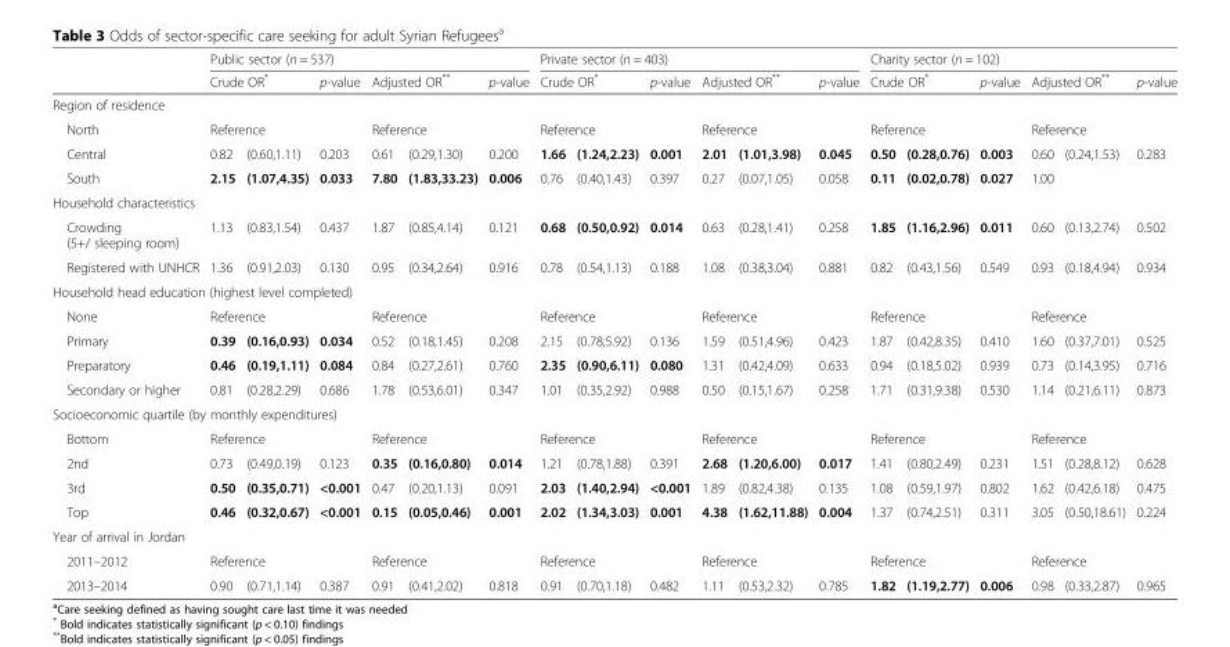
<table><thead><tr><td rowspan="2"></td><td colspan="6">Public sector (n = 537)</td><td colspan="6">Private sector (n = 403)</td><td colspan="6">Charity sector (n = 102)</td></tr><tr><td colspan="2">Crude OR*</td><td>p-value</td><td colspan="2">Adjusted OR**</td><td>p-value</td><td colspan="2">Crude OR*</td><td>p-value</td><td colspan="2">Adjusted OR**</td><td>p-value</td><td colspan="2">Crude OR*</td><td>p-value</td><td colspan="2">Adjusted OR**</td><td>p-value</td></tr><tr><td colspan="19">Region of residence</td></tr><tr><td rowspan="2">North Central</td><td colspan="2">Reference</td><td rowspan="2">0.203</td><td colspan="2">Reference</td><td rowspan="2">0.200</td><td colspan="2">Reference</td><td rowspan="2">0.001</td><td colspan="2">Reference</td><td rowspan="2">0.045</td><td colspan="2">Reference</td><td rowspan="2">0.003</td><td colspan="2">Reference</td><td rowspan="2">0.283</td></tr><tr><td>0.82</td><td>(0.60,1.11)</td><td>0.61</td><td>(0.29,1.30)</td><td>1.66</td><td>(1.24,2.23)</td><td>2.01</td><td>(1.01,3.98)</td><td>0.50</td><td>(0.28,0.76)</td><td>0.60</td><td>(0.24,1.53)</td></tr></thead><tbody><tr><td>South</td><td>2.15</td><td>(1.07,4.35)</td><td>0.033</td><td>7.80</td><td>(1.83,33.23)</td><td>0.006</td><td>0.76</td><td>(0.40,1.43)</td><td>0.397</td><td>0.27</td><td>(0.07,1.05)</td><td>0.058</td><td>0.11</td><td>(0.02,0.78)</td><td>0.027</td><td>1.00</td><td></td><td></td></tr><tr><td colspan="19">Household characteristics</td></tr><tr><td>Crowding (5+/ sleeping room)</td><td>1.13</td><td>(0.83,1.54)</td><td>0.437</td><td>1.87</td><td>(0.85,4.14)</td><td>0.121</td><td>0.68</td><td>(0.50,0.92)</td><td>0.014</td><td>0.63</td><td>(0.28,1.41)</td><td>0.258</td><td>1.85</td><td>(1.16,2.96)</td><td>0.011</td><td>0.60</td><td>(0.13,2.74)</td><td>0.502</td></tr><tr><td>Registered with UNHCR</td><td>1.36</td><td>(0.91,2.03)</td><td>0.130</td><td>0.95</td><td>(0.34,2.64)</td><td>0.916</td><td>0.78</td><td>(0.54,1.13)</td><td>0.188</td><td>1.08</td><td>(0.38,3.04)</td><td>0.881</td><td>0.82</td><td>(0.43,1.56)</td><td>0.549</td><td>0.93</td><td>(0.18,4.94)</td><td>0.934</td></tr><tr><td colspan="19">Household head education (highest level completed)</td></tr><tr><td>None</td><td colspan="2">Reference</td><td></td><td colspan="2">Reference</td><td></td><td colspan="2">Reference</td><td></td><td colspan="2">Reference</td><td></td><td colspan="2">Reference</td><td></td><td colspan="2">Reference</td><td></td></tr><tr><td>Primary</td><td>0.39</td><td>(0.16,0.93)</td><td>0.034</td><td>0.52</td><td>(0.18,1.45)</td><td>0.208</td><td>2.15</td><td>(0.78,5.92)</td><td>0.136</td><td>1.59</td><td>(0.51,4.96)</td><td>0.423</td><td>1.87</td><td>(0.42,8.35)</td><td>0.410</td><td>1.60</td><td>(0.37,7.01)</td><td>0.525</td></tr><tr><td>Preparatory</td><td>0.46</td><td>(0.19,1.11)</td><td>0.084</td><td>0.84</td><td>(0.27,2.61)</td><td>0.760</td><td>2.35</td><td>(0.90,6.11)</td><td>0.080</td><td>1.31</td><td>(0.42,4.09)</td><td>0.633</td><td>0.94</td><td>(0.18,5.02)</td><td>0.939</td><td>0.73</td><td>(0.14,3.95)</td><td>0.716</td></tr><tr><td>Secondary or higher</td><td>0.81</td><td>(0.28,2.29)</td><td>0.686</td><td>1.78</td><td>(0.53,6.01)</td><td>0.347</td><td>1.01</td><td>(0.35,2.92)</td><td>0.988</td><td>0.50</td><td>(0.15,1.67)</td><td>0.258</td><td>1.71</td><td>(0.31,9.38)</td><td>0.530</td><td>1.14</td><td>(0.21,6.11)</td><td>0.873</td></tr><tr><td colspan="19">Socioeconomic quartile (by monthly expenditures)</td></tr><tr><td>Bottom</td><td colspan="2">Reference</td><td></td><td colspan="2">Reference</td><td></td><td colspan="2">Reference</td><td></td><td colspan="2">Reference</td><td></td><td colspan="2">Reference</td><td></td><td colspan="2">Reference</td><td></td></tr><tr><td>2nd</td><td>0.73</td><td>(0.49,0.19)</td><td>0.123</td><td>0.35</td><td>(0.16,0.80)</td><td>0.014</td><td>1.21</td><td>(0.78,1.88)</td><td>0.391</td><td>2.68</td><td>(1.20,6.00)</td><td>0.017</td><td>1.41</td><td>(0.80,2.49)</td><td>0.231</td><td>1.51</td><td>(0.28,8.12)</td><td>0.628</td></tr><tr><td>3rd</td><td>0.50</td><td>(0.35,0.71)</td><td>&lt;0.001</td><td>0.47</td><td>(0.20,1.13)</td><td>0.091</td><td>2.03</td><td>(1.40,2.94)</td><td>&lt;0.001</td><td>1.89</td><td>(0.82,4.38)</td><td>0.135</td><td>1.08</td><td>(0.59,1.97)</td><td>0.802</td><td>1.62</td><td>(0.42,6.18)</td><td>0.475</td></tr><tr><td>Top</td><td>0.46</td><td>(0.32,0.67)</td><td>&lt;0.001</td><td>0.15</td><td>(0.05,0.46)</td><td>0.001</td><td>2.02</td><td>(1.34,3.03)</td><td>0.001</td><td>4.38</td><td>(1.62,11.88)</td><td>0.004</td><td>1.37</td><td>(0.74,2.51)</td><td>0.311</td><td>3.05</td><td>(0.50,18.61)</td><td>0.224</td></tr><tr><td colspan="19">Year of arrival in Jordan</td></tr><tr><td>2011–2012</td><td colspan="2">Reference</td><td></td><td colspan="2">Reference</td><td></td><td colspan="2">Reference</td><td></td><td colspan="2">Reference</td><td></td><td colspan="2">Reference</td><td></td><td colspan="2">Reference</td><td></td></tr><tr><td>2013–2014</td><td>0.90</td><td>(0.71,1.14)</td><td>0.387</td><td>0.91</td><td>(0.41,2.02)</td><td>0.818</td><td>0.91</td><td>(0.70,1.18)</td><td>0.482</td><td>1.11</td><td>(0.53,2.32)</td><td>0.785</td><td>1.82</td><td>(1.19,2.77)</td><td>0.006</td><td>0.98</td><td>(0.33,2.87)</td><td>0.965</td></tr></tbody></table>